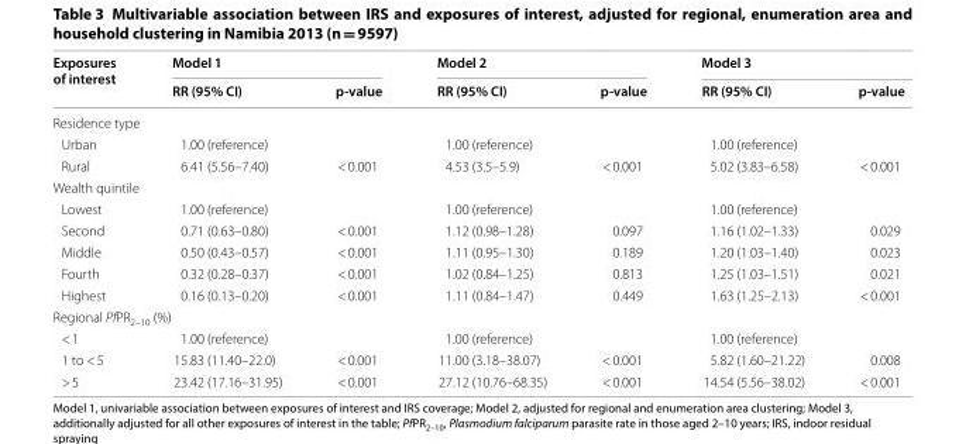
<table><thead><tr><td rowspan="2">Exposures of interest</td><td colspan="2">Model 1</td><td colspan="2">Model 2</td><td colspan="2">Model 3</td></tr><tr><td>RR (95% CI)</td><td>p-value</td><td>RR (95% CI)</td><td>p-value</td><td>RR (95% CI)</td><td>p-value</td></tr></thead><tbody><tr><td colspan="7">Residence type</td></tr><tr><td>Urban</td><td>1.00 (reference)</td><td></td><td>1.00 (reference)</td><td></td><td>1.00 (reference)</td><td></td></tr><tr><td>Rural</td><td>6.41 (5.56–7.40)</td><td>&lt; 0.001</td><td>4.53 (3.5–5.9)</td><td>&lt; 0.001</td><td>5.02 (3.83–6.58)</td><td>&lt; 0.001</td></tr><tr><td colspan="7">Wealth quintile</td></tr><tr><td>Lowest</td><td>1.00 (reference)</td><td></td><td>1.00 (reference)</td><td></td><td>1.00 (reference)</td><td></td></tr><tr><td>Second</td><td>0.71 (0.63–0.80)</td><td>&lt; 0.001</td><td>1.12 (0.98–1.28)</td><td>0.097</td><td>1.16 (1.02–1.33)</td><td>0.029</td></tr><tr><td>Middle</td><td>0.50 (0.43–0.57)</td><td>&lt; 0.001</td><td>1.11 (0.95–1.30)</td><td>0.189</td><td>1.20 (1.03–1.40)</td><td>0.023</td></tr><tr><td>Fourth</td><td>0.32 (0.28–0.37)</td><td>&lt; 0.001</td><td>1.02 (0.84–1.25)</td><td>0.813</td><td>1.25 (1.03–1.51)</td><td>0.021</td></tr><tr><td>Highest</td><td>0.16 (0.13–0.20)</td><td>&lt; 0.001</td><td>1.11 (0.84–1.47)</td><td>0.449</td><td>1.63 (1.25–2.13)</td><td>&lt; 0.001</td></tr><tr><td colspan="7">Regional PfPR<sub>2–10</sub> (%)</td></tr><tr><td>&lt; 1</td><td>1.00 (reference)</td><td></td><td>1.00 (reference)</td><td></td><td>1.00 (reference)</td><td></td></tr><tr><td>1 to &lt; 5</td><td>15.83 (11.40–22.0)</td><td>&lt; 0.001</td><td>11.00 (3.18–38.07)</td><td>&lt; 0.001</td><td>5.82 (1.60–21.22)</td><td>0.008</td></tr><tr><td>&gt; 5</td><td>23.42 (17.16–31.95)</td><td>&lt; 0.001</td><td>27.12 (10.76–68.35)</td><td>&lt; 0.001</td><td>14.54 (5.56–38.02)</td><td>&lt; 0.001</td></tr></tbody></table>